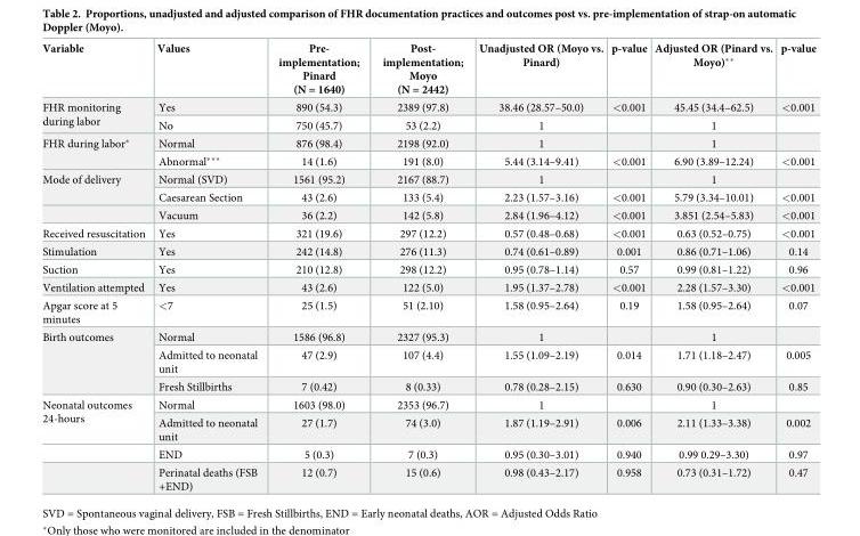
<table><thead><tr><td>Variable</td><td>Values</td><td>Pre- implementation; Pinard (N = 1640)</td><td>Post- implementation; Moyo (N = 2442)</td><td>Unadjusted OR (Moyo vs. Pinard)</td><td>p-value</td><td>Adjusted OR (Pinard vs. Moyo)**</td><td>p-value</td></tr></thead><tbody><tr><td rowspan="2">FHR monitoring during labor</td><td>Yes</td><td>890 (54.3)</td><td>2389 (97.8)</td><td>38.46 (28.57–50.0)</td><td>&lt;0.001</td><td>45.45 (34.4–62.5)</td><td>&lt;0.001</td></tr><tr><td>No</td><td>750 (45.7)</td><td>53 (2.2)</td><td>1</td><td></td><td>1</td><td></td></tr><tr><td rowspan="2">FHR during labor*</td><td>Normal</td><td>876 (98.4)</td><td>2198 (92.0)</td><td>1</td><td></td><td>1</td><td></td></tr><tr><td>Abnormal***</td><td>14 (1.6)</td><td>191 (8.0)</td><td>5.44 (3.14–9.41)</td><td>&lt;0.001</td><td>6.90 (3.89–12.24)</td><td>&lt;0.001</td></tr><tr><td rowspan="3">Mode of delivery</td><td>Normal (SVD)</td><td>1561 (95.2)</td><td>2167 (88.7)</td><td>1</td><td></td><td>1</td><td></td></tr><tr><td>Caesarean Section</td><td>43 (2.6)</td><td>133 (5.4)</td><td>2.23 (1.57–3.16)</td><td>&lt;0.001</td><td>5.79 (3.34–10.01)</td><td>&lt;0.001</td></tr><tr><td>Vacuum</td><td>36 (2.2)</td><td>142 (5.8)</td><td>2.84 (1.96–4.12)</td><td>&lt;0.001</td><td>3.851 (2.54–5.83)</td><td>&lt;0.001</td></tr><tr><td>Received resuscitation</td><td>Yes</td><td>321 (19.6)</td><td>297 (12.2)</td><td>0.57 (0.48–0.68)</td><td>&lt;0.001</td><td>0.63 (0.52–0.75)</td><td>&lt;0.001</td></tr><tr><td>Stimulation</td><td>Yes</td><td>242 (14.8)</td><td>276 (11.3)</td><td>0.74 (0.61–0.89)</td><td>0.001</td><td>0.86 (0.71–1.06)</td><td>0.14</td></tr><tr><td>Suction</td><td>Yes</td><td>210 (12.8)</td><td>298 (12.2)</td><td>0.95 (0.78–1.14)</td><td>0.57</td><td>0.99 (0.81–1.22)</td><td>0.96</td></tr><tr><td>Ventilation attempted</td><td>Yes</td><td>43 (2.6)</td><td>122 (5.0)</td><td>1.95 (1.37–2.78)</td><td>&lt;0.001</td><td>2.28 (1.57–3.30)</td><td>&lt;0.001</td></tr><tr><td>Apgar score at 5 minutes</td><td>&lt;7</td><td>25 (1.5)</td><td>51 (2.10)</td><td>1.58 (0.95–2.64)</td><td>0.19</td><td>1.58 (0.95–2.64)</td><td>0.07</td></tr><tr><td rowspan="3">Birth outcomes</td><td>Normal</td><td>1586 (96.8)</td><td>2327 (95.3)</td><td>1</td><td></td><td>1</td><td></td></tr><tr><td>Admitted to neonatal unit</td><td>47 (2.9)</td><td>107 (4.4)</td><td>1.55 (1.09–2.19)</td><td>0.014</td><td>1.71 (1.18–2.47)</td><td>0.005</td></tr><tr><td>Fresh Stillbirths</td><td>7 (0.42)</td><td>8 (0.33)</td><td>0.78 (0.28–2.15)</td><td>0.630</td><td>0.90 (0.30–2.63)</td><td>0.85</td></tr><tr><td rowspan="4">Neonatal outcomes 24-hours</td><td>Normal</td><td>1603 (98.0)</td><td>2353 (96.7)</td><td>1</td><td></td><td>1</td><td></td></tr><tr><td>Admitted to neonatal unit</td><td>27 (1.7)</td><td>74 (3.0)</td><td>1.87 (1.19–2.91)</td><td>0.006</td><td>2.11 (1.33–3.38)</td><td>0.002</td></tr><tr><td>END</td><td>5 (0.3)</td><td>7 (0.3)</td><td>0.95 (0.30–3.01)</td><td>0.940</td><td>0.99 0.29–3.30)</td><td>0.97</td></tr><tr><td>Perinatal deaths (FSB +END)</td><td>12 (0.7)</td><td>15 (0.6)</td><td>0.98 (0.43–2.17)</td><td>0.958</td><td>0.73 (0.31–1.72)</td><td>0.47</td></tr></tbody></table>